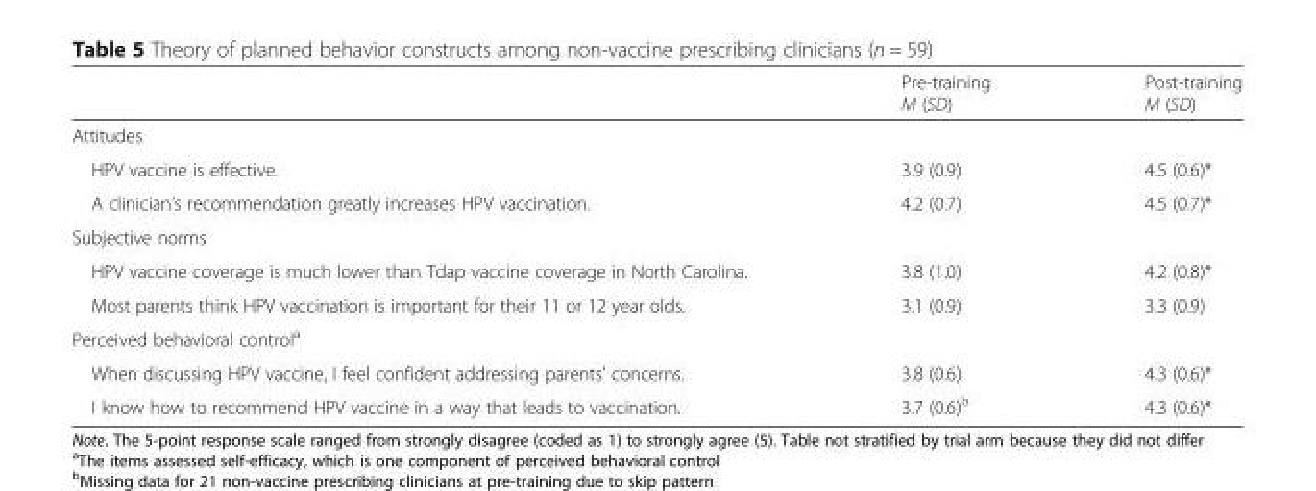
<table><thead><tr><td></td><td>Pre-training M (SD)</td><td>Post-training M (SD)</td></tr></thead><tbody><tr><td colspan="3">Attitudes</td></tr><tr><td>HPV vaccine is effective.</td><td>3.9 (0.9)</td><td>4.5 (0.6)*</td></tr><tr><td>A clinician’s recommendation greatly increases HPV vaccination.</td><td>4.2 (0.7)</td><td>4.5 (0.7)*</td></tr><tr><td colspan="3">Subjective norms</td></tr><tr><td>HPV vaccine coverage is much lower than Tdap vaccine coverage in North Carolina.</td><td>3.8 (1.0)</td><td>4.2 (0.8)*</td></tr><tr><td>Most parents think HPV vaccination is important for their 11 or 12 year olds.</td><td>3.1 (0.9)</td><td>3.3 (0.9)</td></tr><tr><td colspan="3">Perceived behavioral control<sup>a</sup></td></tr><tr><td>When discussing HPV vaccine, I feel confident addressing parents’ concerns.</td><td>3.8 (0.6)</td><td>4.3 (0.6)*</td></tr><tr><td>I know how to recommend HPV vaccine in a way that leads to vaccination.</td><td>3.7 (0.6)<sup>b</sup></td><td>4.3 (0.6)*</td></tr></tbody></table>